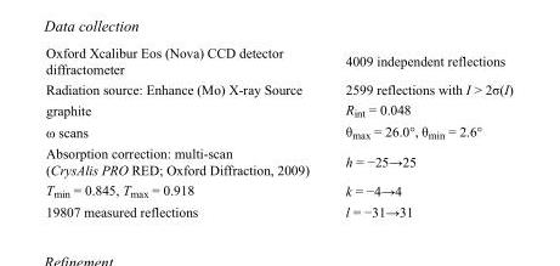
<table><tbody><tr><td>Oxford Xcalibur Eos (Nova) CCD detector diffractometer</td><td>4009 independent reflections</td></tr><tr><td>Radiation source: Enhance (Mo) X-ray Source</td><td>2599 reflections with I &gt; 2σ(I)</td></tr><tr><td>graphite</td><td>R<sub>int</sub> = 0.048</td></tr><tr><td>ω scans</td><td>θ<sub>max</sub> = 26.0°, θ<sub>min</sub> = 2.6°</td></tr><tr><td>Absorption correction: multi-scan (CrysAlis PRO RED; Oxford Diffraction, 2009)</td><td>h = −25→25</td></tr><tr><td>T<sub>min</sub> = 0.845, T<sub>max</sub> = 0.918</td><td>k = −4→4</td></tr><tr><td>19807 measured reflections</td><td>l = −31→31</td></tr></tbody></table>